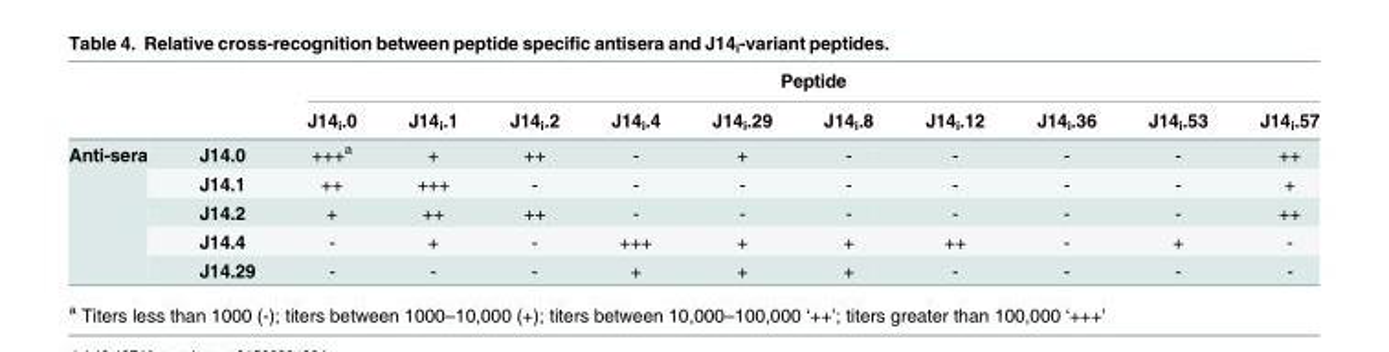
<table><thead><tr><td rowspan="2"></td><td rowspan="2"></td><td colspan="10">Peptide</td></tr><tr><td>J14<sub>i</sub>.0</td><td>J14<sub>i</sub>.1</td><td>J14<sub>i</sub>.2</td><td>J14<sub>i</sub>.4</td><td>J14<sub>i</sub>.29</td><td>J14<sub>i</sub>.8</td><td>J14<sub>i</sub>.12</td><td>J14<sub>i</sub>.36</td><td>J14<sub>i</sub>.53</td><td>J14<sub>i</sub>.57</td></tr></thead><tbody><tr><td rowspan="5">Anti-sera</td><td>J14.0</td><td>+++<sup>a</sup></td><td>+</td><td>++</td><td>-</td><td>+</td><td>-</td><td>-</td><td>-</td><td>-</td><td>++</td></tr><tr><td>J14.1</td><td>++</td><td>+++</td><td>-</td><td>-</td><td>-</td><td>-</td><td>-</td><td>-</td><td>-</td><td>+</td></tr><tr><td>J14.2</td><td>+</td><td>++</td><td>++</td><td>-</td><td>-</td><td>-</td><td>-</td><td>-</td><td>-</td><td>++</td></tr><tr><td>J14.4</td><td>-</td><td>+</td><td>-</td><td>+++</td><td>+</td><td>+</td><td>++</td><td>-</td><td>+</td><td>-</td></tr><tr><td>J14.29</td><td>-</td><td>-</td><td>-</td><td>+</td><td>+</td><td>+</td><td>-</td><td>-</td><td>-</td><td>-</td></tr></tbody></table>